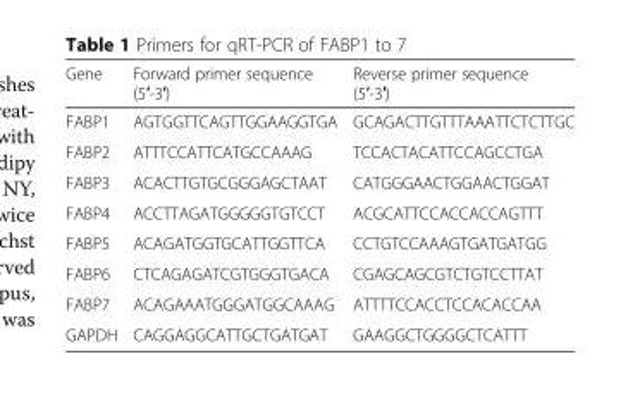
<table><thead><tr><td>Gene</td><td>Forward primer sequence (5′-3′)</td><td>Reverse primer sequence (5′-3′)</td></tr></thead><tbody><tr><td>FABP1</td><td>AGTGGTTCAGTTGGAAGGTGA</td><td>GCAGACTTGTTTAAATTCTCTTGC</td></tr><tr><td>FABP2</td><td>ATTTCCATTCATGCCAAAG</td><td>TCCACTACATTCCAGCCTGA</td></tr><tr><td>FABP3</td><td>ACACTTGTGCGGGAGCTAAT</td><td>CATGGGAACTGGAACTGGAT</td></tr><tr><td>FABP4</td><td>ACCTTAGATGGGGGTGTCCT</td><td>ACGCATTCCACCACCAGTTT</td></tr><tr><td>FABP5</td><td>ACAGATGGTGCATTGGTTCA</td><td>CCTGTCCAAAGTGATGATGG</td></tr><tr><td>FABP6</td><td>CTCAGAGATCGTGGGTGACA</td><td>CGAGCAGCGTCTGTCCTTAT</td></tr><tr><td>FABP7</td><td>ACAGAAATGGGATGGCAAAG</td><td>ATTTTCCACCTCCACACCAA</td></tr><tr><td>GAPDH</td><td>CAGGAGGCATTGCTGATGAT</td><td>GAAGGCTGGGGCTCATTT</td></tr></tbody></table>